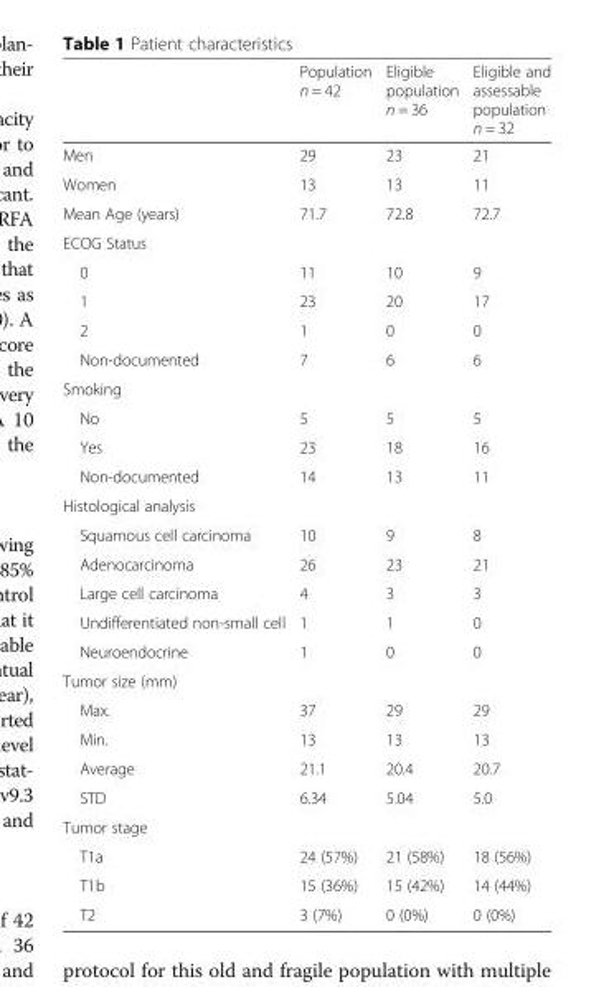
<table><thead><tr><td></td><td>Population n = 42</td><td>Eligible population n = 36</td><td>Eligible and assessable population n = 32</td></tr></thead><tbody><tr><td>Men</td><td>29</td><td>23</td><td>21</td></tr><tr><td>Women</td><td>13</td><td>13</td><td>11</td></tr><tr><td>Mean Age (years)</td><td>71.7</td><td>72.8</td><td>72.7</td></tr><tr><td colspan="4">ECOG Status</td></tr><tr><td>0</td><td>11</td><td>10</td><td>9</td></tr><tr><td>1</td><td>23</td><td>20</td><td>17</td></tr><tr><td>2</td><td>1</td><td>0</td><td>0</td></tr><tr><td>Non-documented</td><td>7</td><td>6</td><td>6</td></tr><tr><td colspan="4">Smoking</td></tr><tr><td>No</td><td>5</td><td>5</td><td>5</td></tr><tr><td>Yes</td><td>23</td><td>18</td><td>16</td></tr><tr><td>Non-documented</td><td>14</td><td>13</td><td>11</td></tr><tr><td colspan="4">Histological analysis</td></tr><tr><td>Squamous cell carcinoma</td><td>10</td><td>9</td><td>8</td></tr><tr><td>Adenocarcinoma</td><td>26</td><td>23</td><td>21</td></tr><tr><td>Large cell carcinoma</td><td>4</td><td>3</td><td>3</td></tr><tr><td>Undifferentiated non-small cell</td><td>1</td><td>1</td><td>0</td></tr><tr><td>Neuroendocrine</td><td>1</td><td>0</td><td>0</td></tr><tr><td colspan="4">Tumor size (mm)</td></tr><tr><td>Max.</td><td>37</td><td>29</td><td>29</td></tr><tr><td>Min.</td><td>13</td><td>13</td><td>13</td></tr><tr><td>Average</td><td>21.1</td><td>20.4</td><td>20.7</td></tr><tr><td>STD</td><td>6.34</td><td>5.04</td><td>5.0</td></tr><tr><td colspan="4">Tumor stage</td></tr><tr><td>T1a</td><td>24 (57%)</td><td>21 (58%)</td><td>18 (56%)</td></tr><tr><td>T1b</td><td>15 (36%)</td><td>15 (42%)</td><td>14 (44%)</td></tr><tr><td>T2</td><td>3 (7%)</td><td>0 (0%)</td><td>0 (0%)</td></tr></tbody></table>